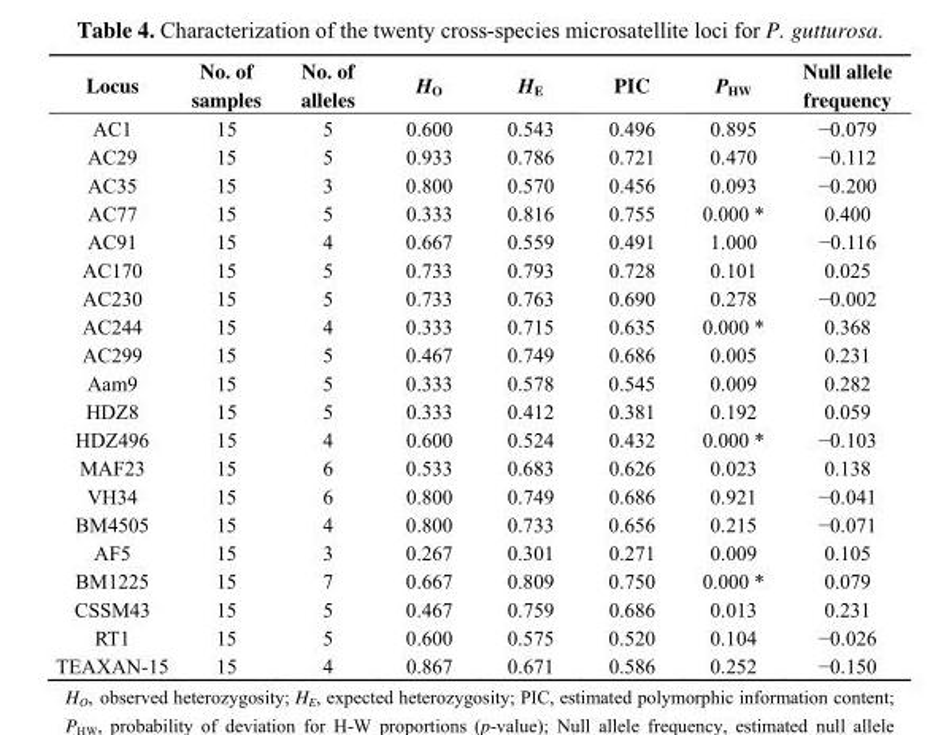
<table><thead><tr><td>Locus</td><td>No. of samples</td><td>No. of alleles</td><td>H<sub>O</sub></td><td>H<sub>E</sub></td><td>PIC</td><td>P<sub>HW</sub></td><td>Null allele frequency</td></tr></thead><tbody><tr><td>AC1</td><td>15</td><td>5</td><td>0.600</td><td>0.543</td><td>0.496</td><td>0.895</td><td>−0.079</td></tr><tr><td>AC29</td><td>15</td><td>5</td><td>0.933</td><td>0.786</td><td>0.721</td><td>0.470</td><td>−0.112</td></tr><tr><td>AC35</td><td>15</td><td>3</td><td>0.800</td><td>0.570</td><td>0.456</td><td>0.093</td><td>−0.200</td></tr><tr><td>AC77</td><td>15</td><td>5</td><td>0.333</td><td>0.816</td><td>0.755</td><td>0.000 *</td><td>0.400</td></tr><tr><td>AC91</td><td>15</td><td>4</td><td>0.667</td><td>0.559</td><td>0.491</td><td>1.000</td><td>−0.116</td></tr><tr><td>AC170</td><td>15</td><td>5</td><td>0.733</td><td>0.793</td><td>0.728</td><td>0.101</td><td>0.025</td></tr><tr><td>AC230</td><td>15</td><td>5</td><td>0.733</td><td>0.763</td><td>0.690</td><td>0.278</td><td>−0.002</td></tr><tr><td>AC244</td><td>15</td><td>4</td><td>0.333</td><td>0.715</td><td>0.635</td><td>0.000 *</td><td>0.368</td></tr><tr><td>AC299</td><td>15</td><td>5</td><td>0.467</td><td>0.749</td><td>0.686</td><td>0.005</td><td>0.231</td></tr><tr><td>Aam9</td><td>15</td><td>5</td><td>0.333</td><td>0.578</td><td>0.545</td><td>0.009</td><td>0.282</td></tr><tr><td>HDZ8</td><td>15</td><td>5</td><td>0.333</td><td>0.412</td><td>0.381</td><td>0.192</td><td>0.059</td></tr><tr><td>HDZ496</td><td>15</td><td>4</td><td>0.600</td><td>0.524</td><td>0.432</td><td>0.000 *</td><td>−0.103</td></tr><tr><td>MAF23</td><td>15</td><td>6</td><td>0.533</td><td>0.683</td><td>0.626</td><td>0.023</td><td>0.138</td></tr><tr><td>VH34</td><td>15</td><td>6</td><td>0.800</td><td>0.749</td><td>0.686</td><td>0.921</td><td>−0.041</td></tr><tr><td>BM4505</td><td>15</td><td>4</td><td>0.800</td><td>0.733</td><td>0.656</td><td>0.215</td><td>−0.071</td></tr><tr><td>AF5</td><td>15</td><td>3</td><td>0.267</td><td>0.301</td><td>0.271</td><td>0.009</td><td>0.105</td></tr><tr><td>BM1225</td><td>15</td><td>7</td><td>0.667</td><td>0.809</td><td>0.750</td><td>0.000 *</td><td>0.079</td></tr><tr><td>CSSM43</td><td>15</td><td>5</td><td>0.467</td><td>0.759</td><td>0.686</td><td>0.013</td><td>0.231</td></tr><tr><td>RT1</td><td>15</td><td>5</td><td>0.600</td><td>0.575</td><td>0.520</td><td>0.104</td><td>−0.026</td></tr><tr><td>TEAXAN-15</td><td>15</td><td>4</td><td>0.867</td><td>0.671</td><td>0.586</td><td>0.252</td><td>−0.150</td></tr></tbody></table>